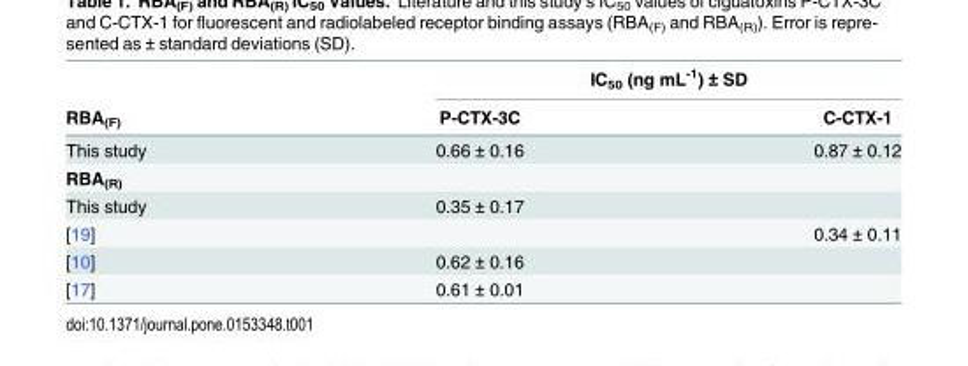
<table><thead><tr><td rowspan="2">RBA<sub>(F)</sub></td><td colspan="2">IC<sub>50</sub> (ng mL<sup>-1</sup>) ± SD</td></tr><tr><td>P-CTX-3C</td><td>C-CTX-1</td></tr></thead><tbody><tr><td>This study</td><td>0.66 ± 0.16</td><td>0.87 ± 0.12</td></tr><tr><td colspan="3">RBA<sub>(R)</sub></td></tr><tr><td>This study</td><td>0.35 ± 0.17</td><td></td></tr><tr><td>[19]</td><td></td><td>0.34 ± 0.11</td></tr><tr><td>[10]</td><td>0.62 ± 0.16</td><td></td></tr><tr><td>[17]</td><td>0.61 ± 0.01</td><td></td></tr></tbody></table>